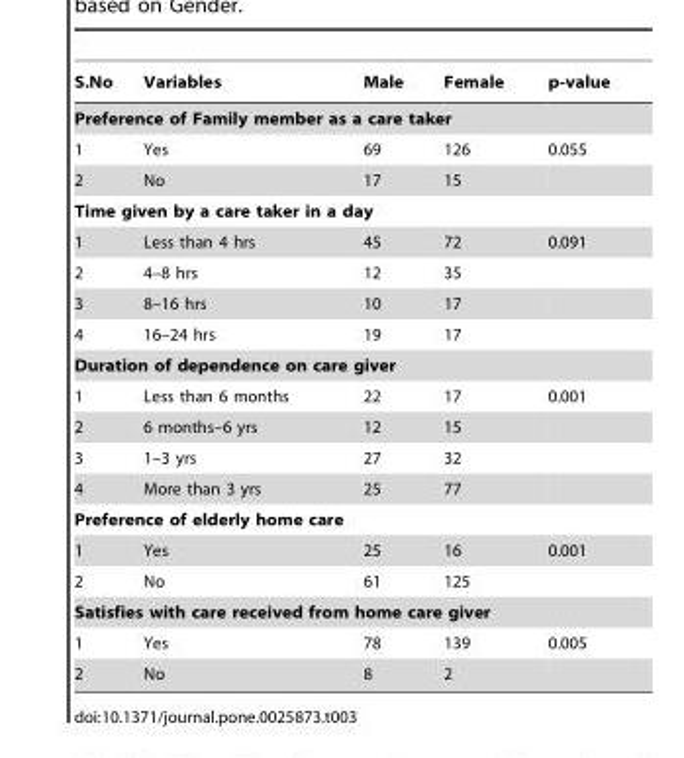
<table><thead><tr><td>S.No</td><td>Variables</td><td>Male</td><td>Female</td><td>p-value</td></tr></thead><tbody><tr><td colspan="5">Preference of Family member as a care taker</td></tr><tr><td>1</td><td>Yes</td><td>69</td><td>126</td><td>0.055</td></tr><tr><td>2</td><td>No</td><td>17</td><td>15</td><td></td></tr><tr><td colspan="5">Time given by a care taker in a day</td></tr><tr><td>1</td><td>Less than 4 hrs</td><td>45</td><td>72</td><td>0.091</td></tr><tr><td>2</td><td>4–8 hrs</td><td>12</td><td>35</td><td></td></tr><tr><td>3</td><td>8–16 hrs</td><td>10</td><td>17</td><td></td></tr><tr><td>4</td><td>16–24 hrs</td><td>19</td><td>17</td><td></td></tr><tr><td colspan="5">Duration of dependence on care giver</td></tr><tr><td>1</td><td>Less than 6 months</td><td>22</td><td>17</td><td>0.001</td></tr><tr><td>2</td><td>6 months–6 yrs</td><td>12</td><td>15</td><td></td></tr><tr><td>3</td><td>1–3 yrs</td><td>27</td><td>32</td><td></td></tr><tr><td>4</td><td>More than 3 yrs</td><td>25</td><td>77</td><td></td></tr><tr><td colspan="5">Preference of elderly home care</td></tr><tr><td>1</td><td>Yes</td><td>25</td><td>16</td><td>0.001</td></tr><tr><td>2</td><td>No</td><td>61</td><td>125</td><td></td></tr><tr><td colspan="5">Satisfies with care received from home care giver</td></tr><tr><td>1</td><td>Yes</td><td>78</td><td>139</td><td>0.005</td></tr><tr><td>2</td><td>No</td><td>8</td><td>2</td><td></td></tr></tbody></table>